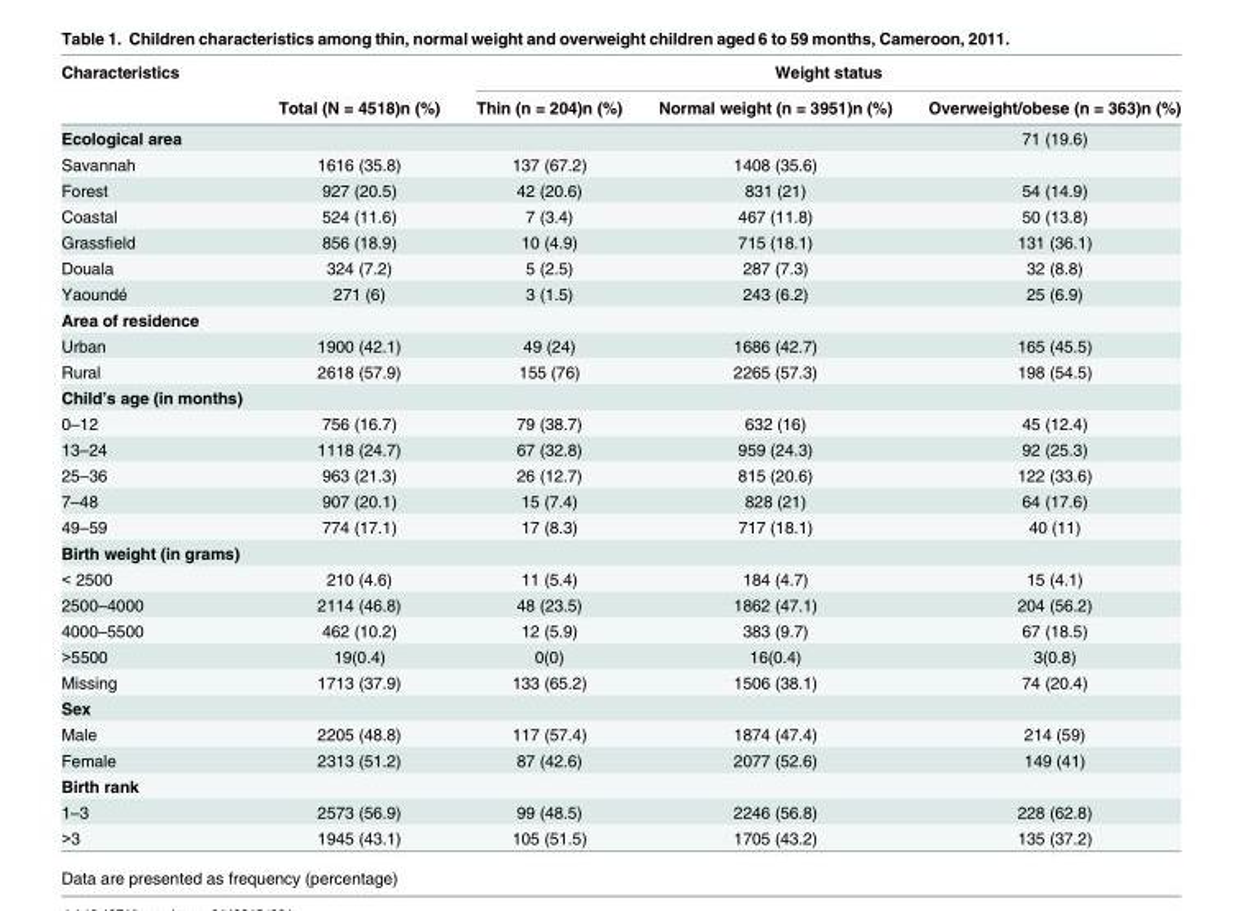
<table><thead><tr><td rowspan="2">Characteristics</td><td rowspan="2">Total (N = 4518)n (%)</td><td colspan="3">Weight status</td></tr><tr><td>Thin (n = 204)n (%)</td><td>Normal weight (n = 3951)n (%)</td><td>Overweight/obese (n = 363)n (%)</td></tr></thead><tbody><tr><td>Ecological area</td><td></td><td></td><td></td><td>71 (19.6)</td></tr><tr><td>Savannah</td><td>1616 (35.8)</td><td>137 (67.2)</td><td>1408 (35.6)</td><td></td></tr><tr><td>Forest</td><td>927 (20.5)</td><td>42 (20.6)</td><td>831 (21)</td><td>54 (14.9)</td></tr><tr><td>Coastal</td><td>524 (11.6)</td><td>7 (3.4)</td><td>467 (11.8)</td><td>50 (13.8)</td></tr><tr><td>Grassfield</td><td>856 (18.9)</td><td>10 (4.9)</td><td>715 (18.1)</td><td>131 (36.1)</td></tr><tr><td>Douala</td><td>324 (7.2)</td><td>5 (2.5)</td><td>287 (7.3)</td><td>32 (8.8)</td></tr><tr><td>Yaoundé</td><td>271 (6)</td><td>3 (1.5)</td><td>243 (6.2)</td><td>25 (6.9)</td></tr><tr><td colspan="5">Area of residence</td></tr><tr><td>Urban</td><td>1900 (42.1)</td><td>49 (24)</td><td>1686 (42.7)</td><td>165 (45.5)</td></tr><tr><td>Rural</td><td>2618 (57.9)</td><td>155 (76)</td><td>2265 (57.3)</td><td>198 (54.5)</td></tr><tr><td colspan="5">Child’s age (in months)</td></tr><tr><td>0–12</td><td>756 (16.7)</td><td>79 (38.7)</td><td>632 (16)</td><td>45 (12.4)</td></tr><tr><td>13–24</td><td>1118 (24.7)</td><td>67 (32.8)</td><td>959 (24.3)</td><td>92 (25.3)</td></tr><tr><td>25–36</td><td>963 (21.3)</td><td>26 (12.7)</td><td>815 (20.6)</td><td>122 (33.6)</td></tr><tr><td>7–48</td><td>907 (20.1)</td><td>15 (7.4)</td><td>828 (21)</td><td>64 (17.6)</td></tr><tr><td>49–59</td><td>774 (17.1)</td><td>17 (8.3)</td><td>717 (18.1)</td><td>40 (11)</td></tr><tr><td colspan="5">Birth weight (in grams)</td></tr><tr><td>&lt; 2500</td><td>210 (4.6)</td><td>11 (5.4)</td><td>184 (4.7)</td><td>15 (4.1)</td></tr><tr><td>2500–4000</td><td>2114 (46.8)</td><td>48 (23.5)</td><td>1862 (47.1)</td><td>204 (56.2)</td></tr><tr><td>4000–5500</td><td>462 (10.2)</td><td>12 (5.9)</td><td>383 (9.7)</td><td>67 (18.5)</td></tr><tr><td>&gt;5500</td><td>19(0.4)</td><td>0(0)</td><td>16(0.4)</td><td>3(0.8)</td></tr><tr><td>Missing</td><td>1713 (37.9)</td><td>133 (65.2)</td><td>1506 (38.1)</td><td>74 (20.4)</td></tr><tr><td colspan="5">Sex</td></tr><tr><td>Male</td><td>2205 (48.8)</td><td>117 (57.4)</td><td>1874 (47.4)</td><td>214 (59)</td></tr><tr><td>Female</td><td>2313 (51.2)</td><td>87 (42.6)</td><td>2077 (52.6)</td><td>149 (41)</td></tr><tr><td colspan="5">Birth rank</td></tr><tr><td>1–3</td><td>2573 (56.9)</td><td>99 (48.5)</td><td>2246 (56.8)</td><td>228 (62.8)</td></tr><tr><td>&gt;3</td><td>1945 (43.1)</td><td>105 (51.5)</td><td>1705 (43.2)</td><td>135 (37.2)</td></tr></tbody></table>